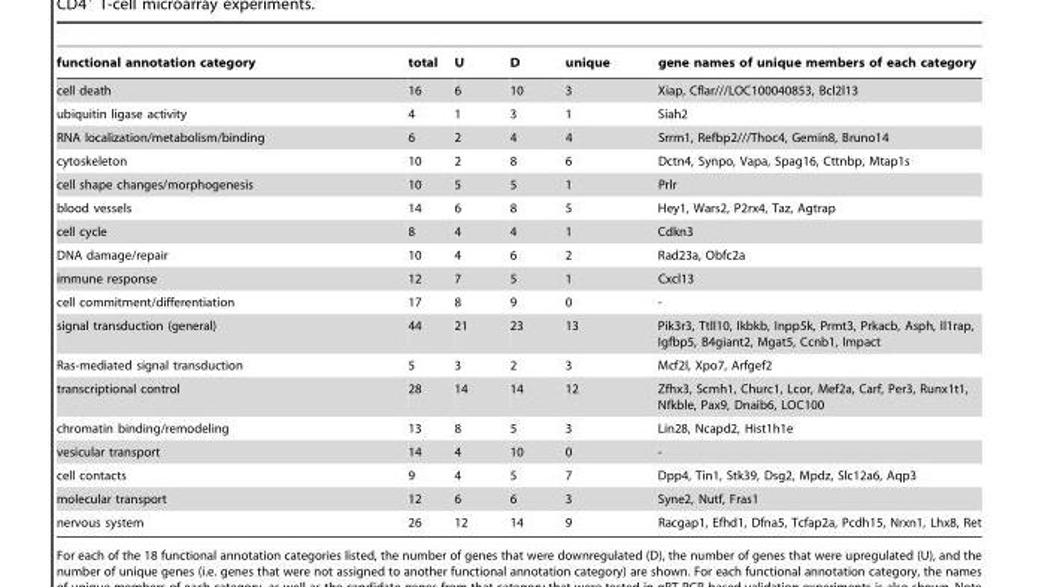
<table><thead><tr><td>functional annotation category</td><td>total</td><td>U</td><td>D</td><td>unique</td><td>gene names of unique members of each category</td></tr></thead><tbody><tr><td>cell death</td><td>16</td><td>6</td><td>10</td><td>3</td><td>Xiap, Cflar///LOC100040853, Bcl2l13</td></tr><tr><td>ubiquitin ligase activity</td><td>4</td><td>1</td><td>3</td><td>1</td><td>Siah2</td></tr><tr><td>RNA localization/metabolism/binding</td><td>6</td><td>2</td><td>4</td><td>4</td><td>Srrm1, Refbp2///Thoc4, Gemin8, Bruno14</td></tr><tr><td>cytoskeleton</td><td>10</td><td>2</td><td>8</td><td>6</td><td>Dctn4, Synpo, Vapa, Spag16, Cttnbp, Mtap1s</td></tr><tr><td>cell shape changes/morphogenesis</td><td>10</td><td>5</td><td>5</td><td>1</td><td>Prlr</td></tr><tr><td>blood vessels</td><td>14</td><td>6</td><td>8</td><td>5</td><td>Hey1, Wars2, P2rx4, Taz, Agtrap</td></tr><tr><td>cell cycle</td><td>8</td><td>4</td><td>4</td><td>1</td><td>Cdkn3</td></tr><tr><td>DNA damage/repair</td><td>10</td><td>4</td><td>6</td><td>2</td><td>Rad23a, Obfc2a</td></tr><tr><td>immune response</td><td>12</td><td>7</td><td>5</td><td>1</td><td>Cxcl13</td></tr><tr><td>cell commitment/differentiation</td><td>17</td><td>8</td><td>9</td><td>0</td><td>-</td></tr><tr><td>signal transduction (general)</td><td>44</td><td>21</td><td>23</td><td>13</td><td>Pik3r3, Ttll10, Ikbkb, Inpp5k, Prmt3, Prkacb, Asph, Il1rap, Igfbp5, B4giant2, Mgat5, Ccnb1, Impact</td></tr><tr><td>Ras-mediated signal transduction</td><td>5</td><td>3</td><td>2</td><td>3</td><td>Mcf2l, Xpo7, Arfgef2</td></tr><tr><td>transcriptional control</td><td>28</td><td>14</td><td>14</td><td>12</td><td>Zfhx3, Scmh1, Churc1, Lcor, Mef2a, Carf, Per3, Runx1t1, Nfkble, Pax9, Dnaib6, LOC100</td></tr><tr><td>chromatin binding/remodeling</td><td>13</td><td>8</td><td>5</td><td>3</td><td>Lin28, Ncapd2, Hist1h1e</td></tr><tr><td>vesicular transport</td><td>14</td><td>4</td><td>10</td><td>0</td><td>-</td></tr><tr><td>cell contacts</td><td>9</td><td>4</td><td>5</td><td>7</td><td>Dpp4, Tin1, Stk39, Dsg2, Mpdz, Slc12a6, Aqp3</td></tr><tr><td>molecular transport</td><td>12</td><td>6</td><td>6</td><td>3</td><td>Syne2, Nutf, Fras1</td></tr><tr><td>nervous system</td><td>26</td><td>12</td><td>14</td><td>9</td><td>Racgap1, Efhd1, Dfna5, Tcfap2a, Pcdh15, Nrxn1, Lhx8, Ret</td></tr></tbody></table>